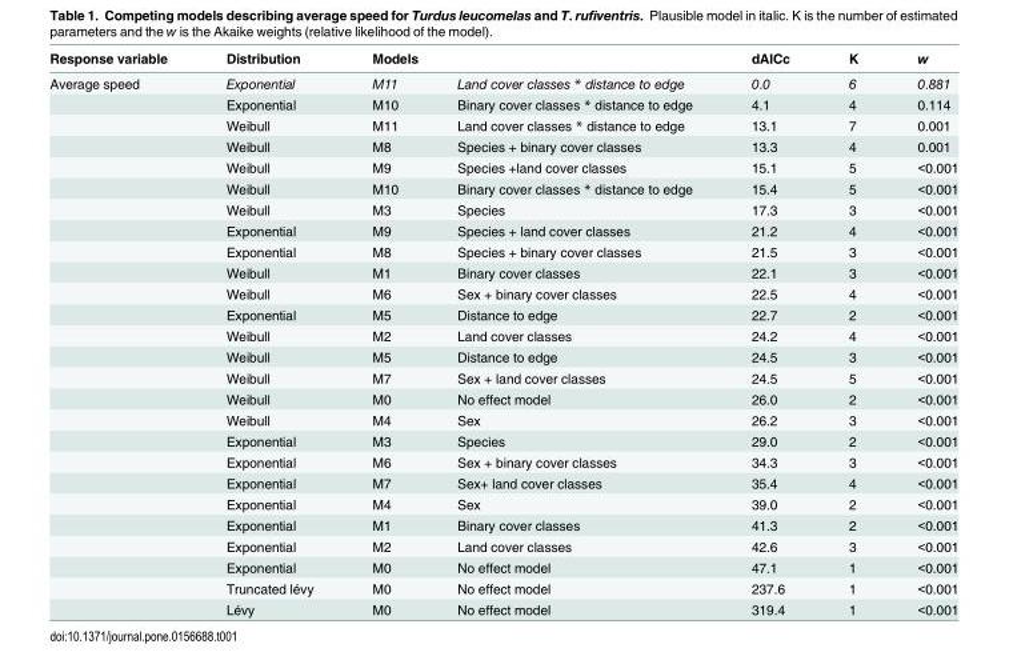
<table><thead><tr><td rowspan="2">Response variable Average speed</td><td rowspan="2">Distribution Exponential</td><td colspan="2">Models</td><td rowspan="2">dAICc 0.0</td><td rowspan="2">K 6</td><td rowspan="2">w 0.881</td></tr><tr><td>M11</td><td>Land cover classes * distance to edge</td></tr></thead><tbody><tr><td></td><td>Exponential</td><td>M10</td><td>Binary cover classes * distance to edge</td><td>4.1</td><td>4</td><td>0.114</td></tr><tr><td></td><td>Weibull</td><td>M11</td><td>Land cover classes * distance to edge</td><td>13.1</td><td>7</td><td>0.001</td></tr><tr><td></td><td>Weibull</td><td>M8</td><td>Species + binary cover classes</td><td>13.3</td><td>4</td><td>0.001</td></tr><tr><td></td><td>Weibull</td><td>M9</td><td>Species +land cover classes</td><td>15.1</td><td>5</td><td>&lt;0.001</td></tr><tr><td></td><td>Weibull</td><td>M10</td><td>Binary cover classes * distance to edge</td><td>15.4</td><td>5</td><td>&lt;0.001</td></tr><tr><td></td><td>Weibull</td><td>M3</td><td>Species</td><td>17.3</td><td>3</td><td>&lt;0.001</td></tr><tr><td></td><td>Exponential</td><td>M9</td><td>Species + land cover classes</td><td>21.2</td><td>4</td><td>&lt;0.001</td></tr><tr><td></td><td>Exponential</td><td>M8</td><td>Species + binary cover classes</td><td>21.5</td><td>3</td><td>&lt;0.001</td></tr><tr><td></td><td>Weibull</td><td>M1</td><td>Binary cover classes</td><td>22.1</td><td>3</td><td>&lt;0.001</td></tr><tr><td></td><td>Weibull</td><td>M6</td><td>Sex + binary cover classes</td><td>22.5</td><td>4</td><td>&lt;0.001</td></tr><tr><td></td><td>Exponential</td><td>M5</td><td>Distance to edge</td><td>22.7</td><td>2</td><td>&lt;0.001</td></tr><tr><td></td><td>Weibull</td><td>M2</td><td>Land cover classes</td><td>24.2</td><td>4</td><td>&lt;0.001</td></tr><tr><td></td><td>Weibull</td><td>M5</td><td>Distance to edge</td><td>24.5</td><td>3</td><td>&lt;0.001</td></tr><tr><td></td><td>Weibull</td><td>M7</td><td>Sex + land cover classes</td><td>24.5</td><td>5</td><td>&lt;0.001</td></tr><tr><td></td><td>Weibull</td><td>M0</td><td>No effect model</td><td>26.0</td><td>2</td><td>&lt;0.001</td></tr><tr><td></td><td>Weibull</td><td>M4</td><td>Sex</td><td>26.2</td><td>3</td><td>&lt;0.001</td></tr><tr><td></td><td>Exponential</td><td>M3</td><td>Species</td><td>29.0</td><td>2</td><td>&lt;0.001</td></tr><tr><td></td><td>Exponential</td><td>M6</td><td>Sex + binary cover classes</td><td>34.3</td><td>3</td><td>&lt;0.001</td></tr><tr><td></td><td>Exponential</td><td>M7</td><td>Sex+ land cover classes</td><td>35.4</td><td>4</td><td>&lt;0.001</td></tr><tr><td></td><td>Exponential</td><td>M4</td><td>Sex</td><td>39.0</td><td>2</td><td>&lt;0.001</td></tr><tr><td></td><td>Exponential</td><td>M1</td><td>Binary cover classes</td><td>41.3</td><td>2</td><td>&lt;0.001</td></tr><tr><td></td><td>Exponential</td><td>M2</td><td>Land cover classes</td><td>42.6</td><td>3</td><td>&lt;0.001</td></tr><tr><td></td><td>Exponential</td><td>M0</td><td>No effect model</td><td>47.1</td><td>1</td><td>&lt;0.001</td></tr><tr><td></td><td>Truncated lévy</td><td>M0</td><td>No effect model</td><td>237.6</td><td>1</td><td>&lt;0.001</td></tr><tr><td></td><td>Lévy</td><td>M0</td><td>No effect model</td><td>319.4</td><td>1</td><td>&lt;0.001</td></tr></tbody></table>